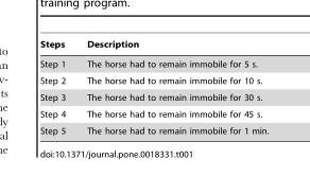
<table><thead><tr><td>Steps</td><td>Description</td></tr></thead><tbody><tr><td>Step 1</td><td>The horse had to remain immobile for 5 s.</td></tr><tr><td>Step 2</td><td>The horse had to remain immobile for 10 s.</td></tr><tr><td>Step 3</td><td>The horse had to remain immobile for 30 s.</td></tr><tr><td>Step 4</td><td>The horse had to remain immobile for 45 s.</td></tr><tr><td>Step 5</td><td>The horse had to remain immobile for 1 min.</td></tr></tbody></table>